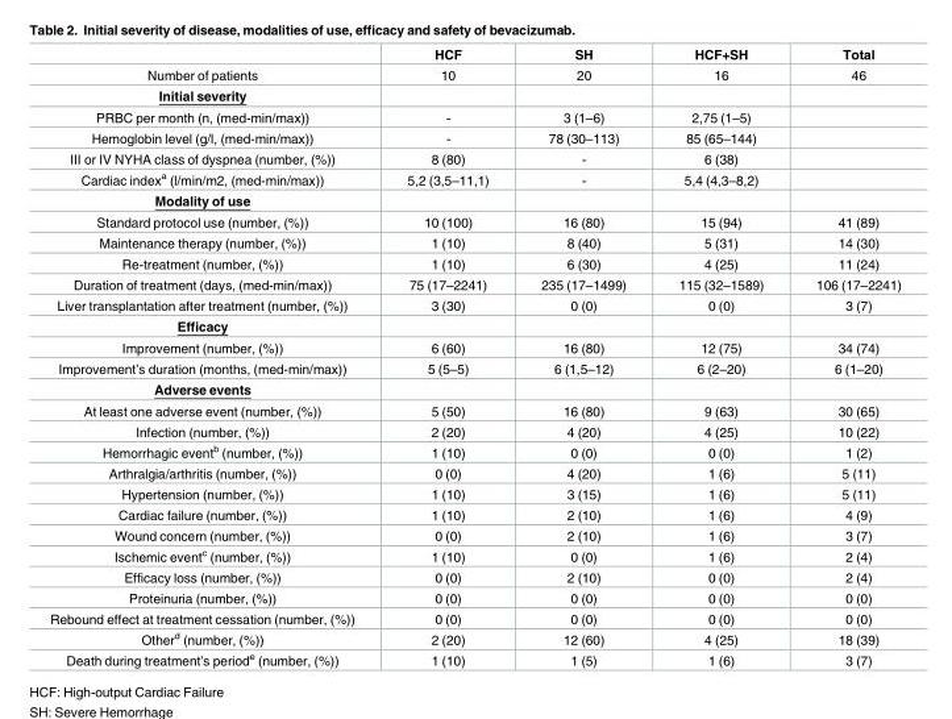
<table><thead><tr><td></td><td>HCF</td><td>SH</td><td>HCF+SH</td><td>Total</td></tr></thead><tbody><tr><td>Number of patients</td><td>10</td><td>20</td><td>16</td><td>46</td></tr><tr><td colspan="5">Initial severity</td></tr><tr><td>PRBC per month (n, (med-min/max))</td><td>-</td><td>3 (1–6)</td><td>2,75 (1–5)</td><td></td></tr><tr><td>Hemoglobin level (g/l, (med-min/max))</td><td>-</td><td>78 (30–113)</td><td>85 (65–144)</td><td></td></tr><tr><td>III or IV NYHA class of dyspnea (number, (%))</td><td>8 (80)</td><td>-</td><td>6 (38)</td><td></td></tr><tr><td>Cardiac index<sup>a</sup> (l/min/m2, (med-min/max))</td><td>5,2 (3,5–11,1)</td><td>-</td><td>5,4 (4,3–8,2)</td><td></td></tr><tr><td colspan="5">Modality of use</td></tr><tr><td>Standard protocol use (number, (%))</td><td>10 (100)</td><td>16 (80)</td><td>15 (94)</td><td>41 (89)</td></tr><tr><td>Maintenance therapy (number, (%))</td><td>1 (10)</td><td>8 (40)</td><td>5 (31)</td><td>14 (30)</td></tr><tr><td>Re-treatment (number, (%))</td><td>1 (10)</td><td>6 (30)</td><td>4 (25)</td><td>11 (24)</td></tr><tr><td>Duration of treatment (days, (med-min/max))</td><td>75 (17–2241)</td><td>235 (17–1499)</td><td>115 (32–1589)</td><td>106 (17–2241)</td></tr><tr><td>Liver transplantation after treatment (number, (%))</td><td>3 (30)</td><td>0 (0)</td><td>0 (0)</td><td>3 (7)</td></tr><tr><td colspan="5">Efficacy</td></tr><tr><td>Improvement (number, (%))</td><td>6 (60)</td><td>16 (80)</td><td>12 (75)</td><td>34 (74)</td></tr><tr><td>Improvement’s duration (months, (med-min/max))</td><td>5 (5–5)</td><td>6 (1,5–12)</td><td>6 (2–20)</td><td>6 (1–20)</td></tr><tr><td colspan="5">Adverse events</td></tr><tr><td>At least one adverse event (number, (%))</td><td>5 (50)</td><td>16 (80)</td><td>9 (63)</td><td>30 (65)</td></tr><tr><td>Infection (number, (%))</td><td>2 (20)</td><td>4 (20)</td><td>4 (25)</td><td>10 (22)</td></tr><tr><td>Hemorrhagic event<sup>b</sup> (number, (%))</td><td>1 (10)</td><td>0 (0)</td><td>0 (0)</td><td>1 (2)</td></tr><tr><td>Arthralgia/arthritis (number, (%))</td><td>0 (0)</td><td>4 (20)</td><td>1 (6)</td><td>5 (11)</td></tr><tr><td>Hypertension (number, (%))</td><td>1 (10)</td><td>3 (15)</td><td>1 (6)</td><td>5 (11)</td></tr><tr><td>Cardiac failure (number, (%))</td><td>1 (10)</td><td>2 (10)</td><td>1 (6)</td><td>4 (9)</td></tr><tr><td>Wound concern (number, (%))</td><td>0 (0)</td><td>2 (10)</td><td>1 (6)</td><td>3 (7)</td></tr><tr><td>Ischemic event<sup>c</sup> (number, (%))</td><td>1 (10)</td><td>0 (0)</td><td>1 (6)</td><td>2 (4)</td></tr><tr><td>Efficacy loss (number, (%))</td><td>0 (0)</td><td>2 (10)</td><td>0 (0)</td><td>2 (4)</td></tr><tr><td>Proteinuria (number, (%))</td><td>0 (0)</td><td>0 (0)</td><td>0 (0)</td><td>0 (0)</td></tr><tr><td>Rebound effect at treatment cessation (number, (%))</td><td>0 (0)</td><td>0 (0)</td><td>0 (0)</td><td>0 (0)</td></tr><tr><td>Other<sup>d</sup> (number, (%))</td><td>2 (20)</td><td>12 (60)</td><td>4 (25)</td><td>18 (39)</td></tr><tr><td>Death during treatment’s period<sup>e</sup> (number, (%))</td><td>1 (10)</td><td>1 (5)</td><td>1 (6)</td><td>3 (7)</td></tr></tbody></table>